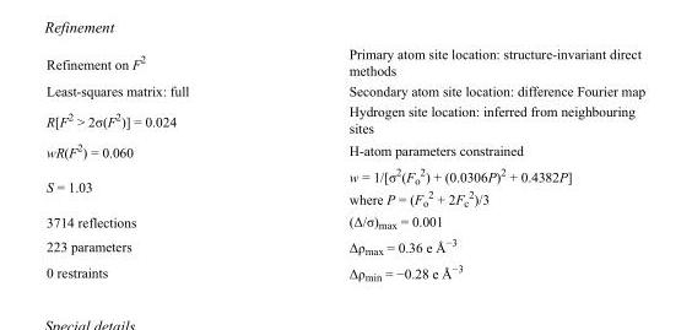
<table><tbody><tr><td>Refinement on F<sup>2</sup></td><td>Primary atom site location: structure-invariant direct methods</td></tr><tr><td>Least-squares matrix: full</td><td>Secondary atom site location: difference Fourier map</td></tr><tr><td>R[F<sup>2</sup> &gt; 2σ(F<sup>2</sup>)] = 0.024</td><td>Hydrogen site location: inferred from neighbouring sites</td></tr><tr><td>wR(F<sup>2</sup>) = 0.060</td><td>H-atom parameters constrained</td></tr><tr><td>S = 1.03</td><td>w = 1/[σ<sup>2</sup>(F<sub>o</sub> <sup>2</sup>) + (0.0306P)<sup>2</sup> + 0.4382P] where P = (F<sub>o</sub> <sup>2</sup> + 2F<sub>c</sub> <sup>2</sup>)/3</td></tr><tr><td>3714 reflections</td><td>(Δ/σ)<sub>max</sub> = 0.001</td></tr><tr><td>223 parameters</td><td>Δρ<sub>max</sub> = 0.36 e Å<sup>−3</sup></td></tr><tr><td>0 restraints</td><td>Δρ<sub>min</sub> = −0.28 e Å<sup>−3</sup></td></tr></tbody></table>